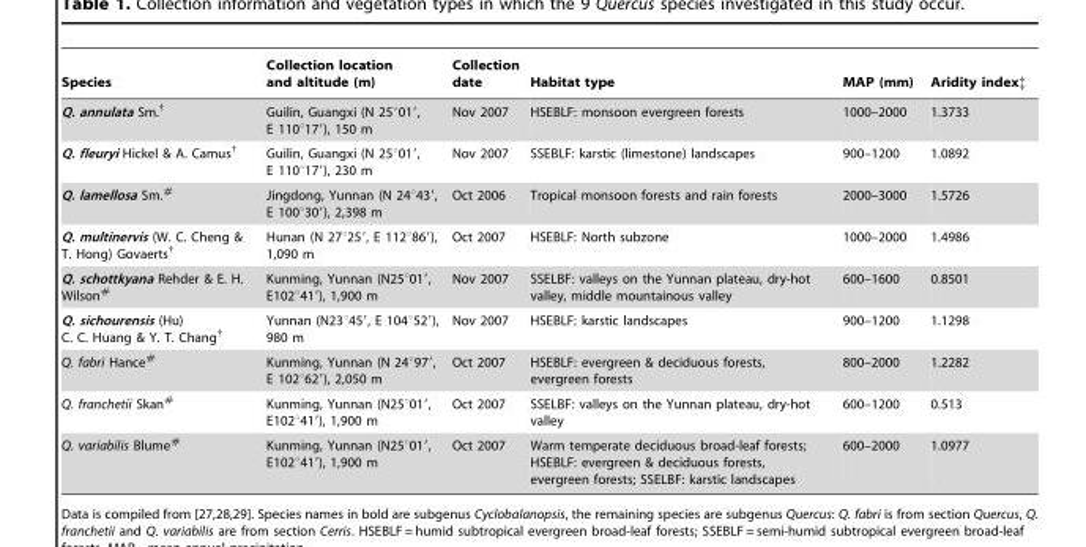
<table><thead><tr><td>Species</td><td>Collection location and altitude (m)</td><td>Collection date</td><td>Habitat type</td><td>MAP (mm)</td><td>Aridity index‡</td></tr></thead><tbody><tr><td>Q. annulata Sm.†</td><td>Guilin, Guangxi (N 25°01′, E 110°17′), 150 m</td><td>Nov 2007</td><td>HSEBLF: monsoon evergreen forests</td><td>1000–2000</td><td>1.3733</td></tr><tr><td>Q. fleuryi Hickel &amp; A. Camus†</td><td>Guilin, Guangxi (N 25°01′, E 110°17′), 230 m</td><td>Nov 2007</td><td>SSEBLF: karstic (limestone) landscapes</td><td>900–1200</td><td>1.0892</td></tr><tr><td>Q. lamellosa Sm.#</td><td>Jingdong, Yunnan (N 24°43′, E 100°30′), 2,398 m</td><td>Oct 2006</td><td>Tropical monsoon forests and rain forests</td><td>2000–3000</td><td>1.5726</td></tr><tr><td>Q. multinervis (W. C. Cheng &amp; T. Hong) Govaerts†</td><td>Hunan (N 27°25′, E 112°86′), 1,090 m</td><td>Oct 2007</td><td>HSEBLF: North subzone</td><td>1000–2000</td><td>1.4986</td></tr><tr><td>Q. schottkyana Rehder &amp; E. H. Wilson#</td><td>Kunming, Yunnan (N25°01′, E102°41′), 1,900 m</td><td>Nov 2007</td><td>SSELBF: valleys on the Yunnan plateau, dry-hot valley, middle mountainous valley</td><td>600–1600</td><td>0.8501</td></tr><tr><td>Q. sichourensis (Hu) C. C. Huang &amp; Y. T. Chang†</td><td>Yunnan (N23°45′, E 104°52′), 980 m</td><td>Nov 2007</td><td>HSEBLF: karstic landscapes</td><td>900–1200</td><td>1.1298</td></tr><tr><td>Q. fabri Hance#</td><td>Kunming, Yunnan (N 24°97′, E 102°62′), 2,050 m</td><td>Oct 2007</td><td>HSEBLF: evergreen &amp; deciduous forests, evergreen forests</td><td>800–2000</td><td>1.2282</td></tr><tr><td>Q. franchetii Skan#</td><td>Kunming, Yunnan (N25°01′, E102°41′), 1,900 m</td><td>Oct 2007</td><td>SSELBF: valleys on the Yunnan plateau, dry-hot valley</td><td>600–1200</td><td>0.513</td></tr><tr><td>Q. variabilis Blume#</td><td>Kunming, Yunnan (N25°01′, E102°41′), 1,900 m</td><td>Oct 2007</td><td>Warm temperate deciduous broad-leaf forests; HSEBLF: evergreen &amp; deciduous forests, evergreen forests; SSELBF: karstic landscapes</td><td>600–2000</td><td>1.0977</td></tr></tbody></table>